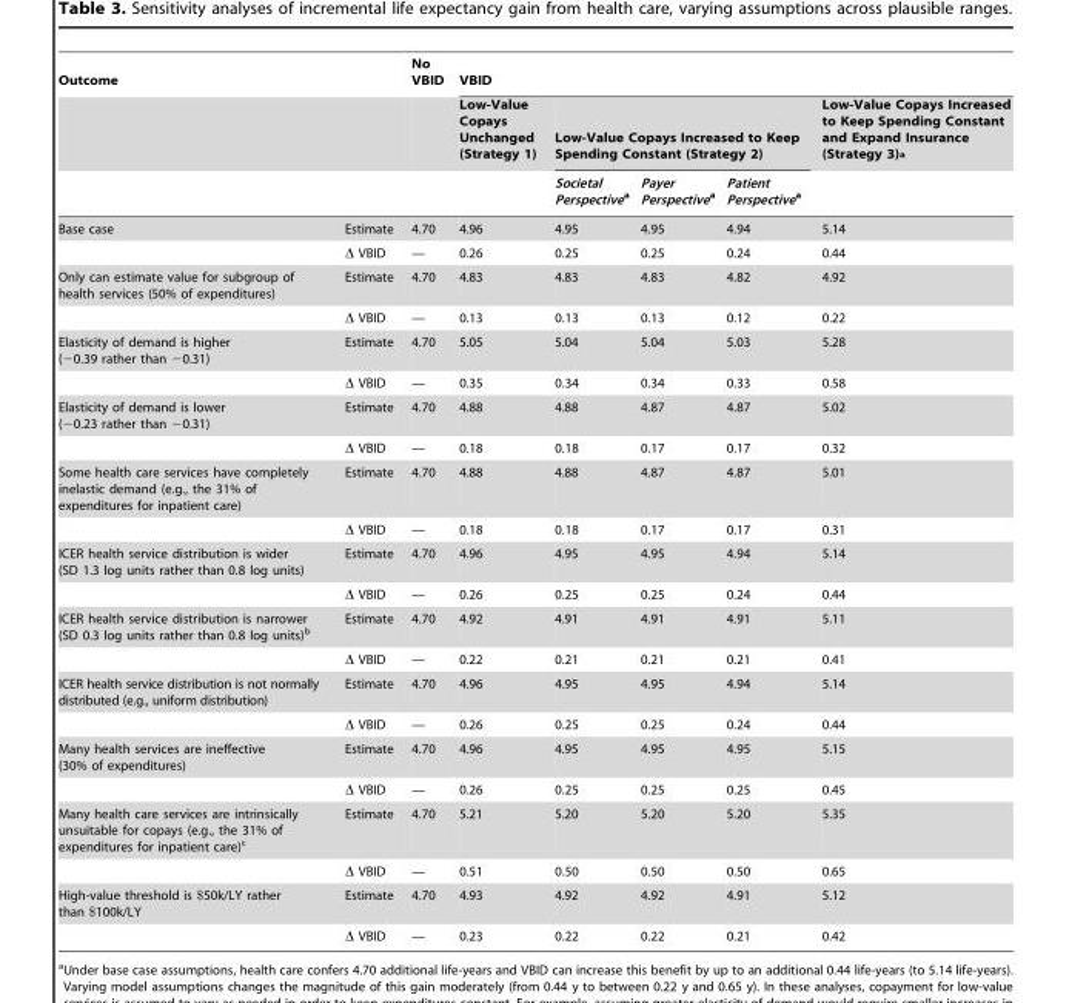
<table><thead><tr><td colspan="2">Outcome</td><td rowspan="3">No VBID</td><td colspan="5">VBID</td></tr><tr><td rowspan="2"></td><td rowspan="2"></td><td rowspan="2">Low-Value Copays Unchanged (Strategy 1)</td><td colspan="3">Low-Value Copays Increased to Keep Spending Constant (Strategy 2)</td><td rowspan="2">Low-Value Copays Increased to Keep Spending Constant and Expand Insurance (Strategy 3)<sup>a</sup></td></tr><tr><td>Societal Perspectivea</td><td>Payer Perspectivea</td><td>Patient Perspectivea</td></tr></thead><tbody><tr><td rowspan="2">Base case</td><td>Estimate</td><td>4.70</td><td>4.96</td><td>4.95</td><td>4.95</td><td>4.94</td><td>5.14</td></tr><tr><td>Δ VBID</td><td>—</td><td>0.26</td><td>0.25</td><td>0.25</td><td>0.24</td><td>0.44</td></tr><tr><td rowspan="2">Only can estimate value for subgroup of health services (50% of expenditures)</td><td>Estimate</td><td>4.70</td><td>4.83</td><td>4.83</td><td>4.83</td><td>4.82</td><td>4.92</td></tr><tr><td>Δ VBID</td><td>—</td><td>0.13</td><td>0.13</td><td>0.13</td><td>0.12</td><td>0.22</td></tr><tr><td rowspan="2">Elasticity of demand is higher (−0.39 rather than −0.31)</td><td>Estimate</td><td>4.70</td><td>5.05</td><td>5.04</td><td>5.04</td><td>5.03</td><td>5.28</td></tr><tr><td>Δ VBID</td><td>—</td><td>0.35</td><td>0.34</td><td>0.34</td><td>0.33</td><td>0.58</td></tr><tr><td rowspan="2">Elasticity of demand is lower (−0.23 rather than −0.31)</td><td>Estimate</td><td>4.70</td><td>4.88</td><td>4.88</td><td>4.87</td><td>4.87</td><td>5.02</td></tr><tr><td>Δ VBID</td><td>—</td><td>0.18</td><td>0.18</td><td>0.17</td><td>0.17</td><td>0.32</td></tr><tr><td rowspan="2">Some health care services have completely inelastic demand (e.g., the 31% of expenditures for inpatient care)</td><td>Estimate</td><td>4.70</td><td>4.88</td><td>4.88</td><td>4.87</td><td>4.87</td><td>5.01</td></tr><tr><td>Δ VBID</td><td>—</td><td>0.18</td><td>0.18</td><td>0.17</td><td>0.17</td><td>0.31</td></tr><tr><td rowspan="2">ICER health service distribution is wider (SD 1.3 log units rather than 0.8 log units)</td><td>Estimate</td><td>4.70</td><td>4.96</td><td>4.95</td><td>4.95</td><td>4.94</td><td>5.14</td></tr><tr><td>Δ VBID</td><td>—</td><td>0.26</td><td>0.25</td><td>0.25</td><td>0.24</td><td>0.44</td></tr><tr><td rowspan="2">ICER health service distribution is narrower (SD 0.3 log units rather than 0.8 log units)<sup>b</sup></td><td>Estimate</td><td>4.70</td><td>4.92</td><td>4.91</td><td>4.91</td><td>4.91</td><td>5.11</td></tr><tr><td>Δ VBID</td><td>—</td><td>0.22</td><td>0.21</td><td>0.21</td><td>0.21</td><td>0.41</td></tr><tr><td rowspan="2">ICER health service distribution is not normally distributed (e.g., uniform distribution)</td><td>Estimate</td><td>4.70</td><td>4.96</td><td>4.95</td><td>4.95</td><td>4.94</td><td>5.14</td></tr><tr><td>Δ VBID</td><td>—</td><td>0.26</td><td>0.25</td><td>0.25</td><td>0.24</td><td>0.44</td></tr><tr><td rowspan="2">Many health services are ineffective (30% of expenditures)</td><td>Estimate</td><td>4.70</td><td>4.96</td><td>4.95</td><td>4.95</td><td>4.95</td><td>5.15</td></tr><tr><td>Δ VBID</td><td>—</td><td>0.26</td><td>0.25</td><td>0.25</td><td>0.25</td><td>0.45</td></tr><tr><td rowspan="2">Many health care services are intrinsically unsuitable for copays (e.g., the 31% of expenditures for inpatient care)<sup>c</sup></td><td>Estimate</td><td>4.70</td><td>5.21</td><td>5.20</td><td>5.20</td><td>5.20</td><td>5.35</td></tr><tr><td>Δ VBID</td><td>—</td><td>0.51</td><td>0.50</td><td>0.50</td><td>0.50</td><td>0.65</td></tr><tr><td rowspan="2">High-value threshold is $50k/LY rather than $100k/LY</td><td>Estimate</td><td>4.70</td><td>4.93</td><td>4.92</td><td>4.92</td><td>4.91</td><td>5.12</td></tr><tr><td>Δ VBID</td><td>—</td><td>0.23</td><td>0.22</td><td>0.22</td><td>0.21</td><td>0.42</td></tr></tbody></table>